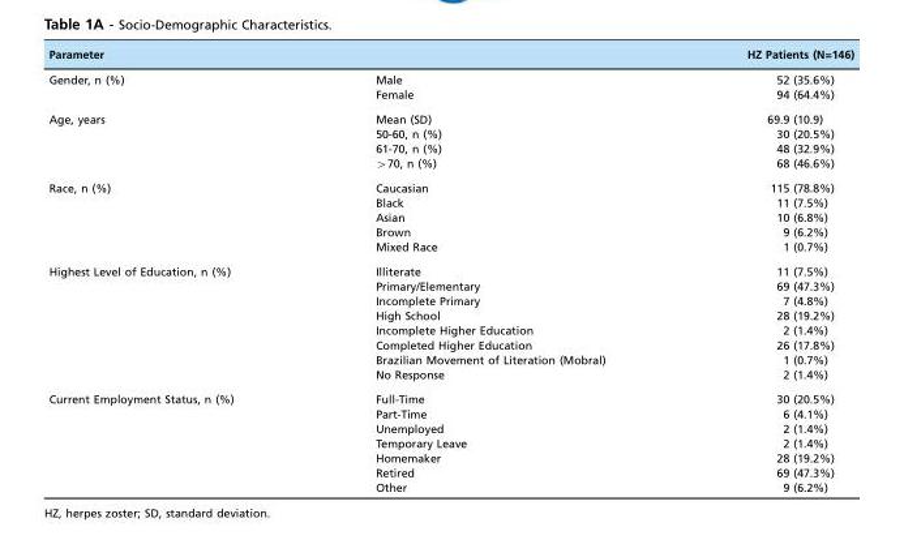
<table><thead><tr><td>Parameter</td><td></td><td>HZ Patients (N=146)</td></tr></thead><tbody><tr><td rowspan="2">Gender, n (%)</td><td>Male</td><td>52 (35.6%)</td></tr><tr><td>Female</td><td>94 (64.4%)</td></tr><tr><td rowspan="4">Age, years</td><td>Mean (SD)</td><td>69.9 (10.9)</td></tr><tr><td>50-60, n (%)</td><td>30 (20.5%)</td></tr><tr><td>61-70, n (%)</td><td>48 (32.9%)</td></tr><tr><td>&gt;70, n (%)</td><td>68 (46.6%)</td></tr><tr><td rowspan="5">Race, n (%)</td><td>Caucasian</td><td>115 (78.8%)</td></tr><tr><td>Black</td><td>11 (7.5%)</td></tr><tr><td>Asian</td><td>10 (6.8%)</td></tr><tr><td>Brown</td><td>9 (6.2%)</td></tr><tr><td>Mixed Race</td><td>1 (0.7%)</td></tr><tr><td rowspan="8">Highest Level of Education, n (%)</td><td>Illiterate</td><td>11 (7.5%)</td></tr><tr><td>Primary/Elementary</td><td>69 (47.3%)</td></tr><tr><td>Incomplete Primary</td><td>7 (4.8%)</td></tr><tr><td>High School</td><td>28 (19.2%)</td></tr><tr><td>Incomplete Higher Education</td><td>2 (1.4%)</td></tr><tr><td>Completed Higher Education</td><td>26 (17.8%)</td></tr><tr><td>Brazilian Movement of Literation (Mobral)</td><td>1 (0.7%)</td></tr><tr><td>No Response</td><td>2 (1.4%)</td></tr><tr><td rowspan="7">Current Employment Status, n (%)</td><td>Full-Time</td><td>30 (20.5%)</td></tr><tr><td>Part-Time</td><td>6 (4.1%)</td></tr><tr><td>Unemployed</td><td>2 (1.4%)</td></tr><tr><td>Temporary Leave</td><td>2 (1.4%)</td></tr><tr><td>Homemaker</td><td>28 (19.2%)</td></tr><tr><td>Retired</td><td>69 (47.3%)</td></tr><tr><td>Other</td><td>9 (6.2%)</td></tr></tbody></table>